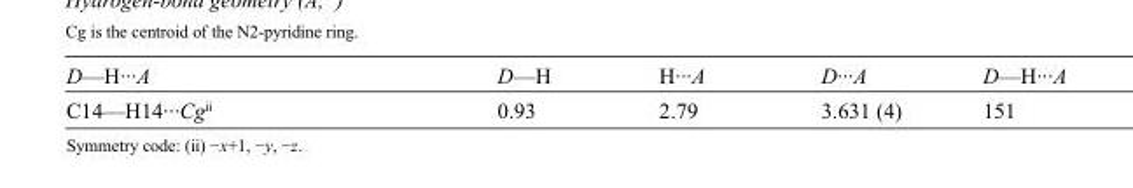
<table><tbody><tr><td>D—H···A</td><td>D—H</td><td>H···A</td><td>D···A</td><td>D—H···A</td></tr><tr><td>C14—H14···Cg<sup>ii</sup></td><td>0.93</td><td>2.79</td><td>3.631 (4)</td><td>151</td></tr></tbody></table>